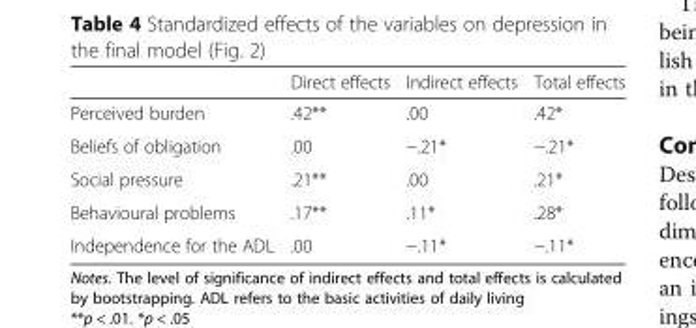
<table><thead><tr><td></td><td>Direct effects</td><td>Indirect effects</td><td>Total effects</td></tr></thead><tbody><tr><td>Perceived burden</td><td>.42**</td><td>.00</td><td>.42*</td></tr><tr><td>Beliefs of obligation</td><td>.00</td><td>−.21*</td><td>−.21*</td></tr><tr><td>Social pressure</td><td>.21**</td><td>.00</td><td>.21*</td></tr><tr><td>Behavioural problems</td><td>.17**</td><td>.11*</td><td>.28*</td></tr><tr><td>Independence for the ADL</td><td>.00</td><td>−.11*</td><td>−.11*</td></tr></tbody></table>